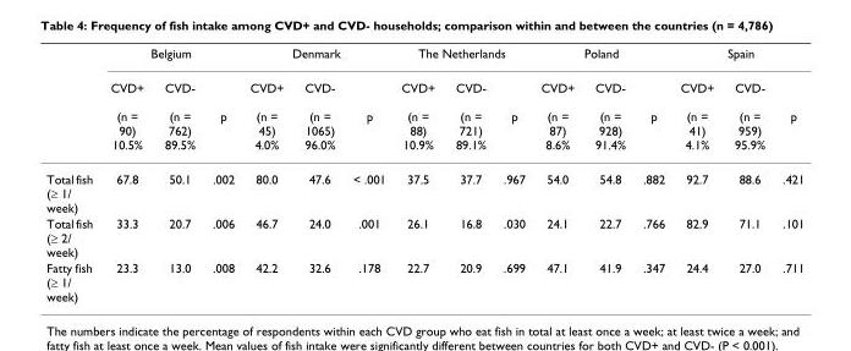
<table><thead><tr><td rowspan="2"></td><td colspan="3">Belgium</td><td colspan="3">Denmark</td><td colspan="3">The Netherlands</td><td colspan="3">Poland</td><td colspan="3">Spain</td></tr><tr><td>CVD+ (n = 90) 10.5%</td><td>CVD- (n = 762) 89.5%</td><td>p</td><td>CVD+ (n = 45) 4.0%</td><td>CVD- (n = 1065) 96.0%</td><td>p</td><td>CVD+ (n = 88) 10.9%</td><td>CVD- (n = 721) 89.1%</td><td>p</td><td>CVD+ (n = 87) 8.6%</td><td>CVD- (n = 928) 91.4%</td><td>p</td><td>CVD+ (n = 41) 4.1%</td><td>CVD- (n = 959) 95.9%</td><td>p</td></tr></thead><tbody><tr><td>Total fish (≥ 1/ week)</td><td>67.8</td><td>50.1</td><td>.002</td><td>80.0</td><td>47.6</td><td>&lt; .001</td><td>37.5</td><td>37.7</td><td>.967</td><td>54.0</td><td>54.8</td><td>.882</td><td>92.7</td><td>88.6</td><td>.421</td></tr><tr><td>Total fish (≥ 2/ week)</td><td>33.3</td><td>20.7</td><td>.006</td><td>46.7</td><td>24.0</td><td>.001</td><td>26.1</td><td>16.8</td><td>.030</td><td>24.1</td><td>22.7</td><td>.766</td><td>82.9</td><td>71.1</td><td>.101</td></tr><tr><td>Fatty fish (≥ 1/ week)</td><td>23.3</td><td>13.0</td><td>.008</td><td>42.2</td><td>32.6</td><td>.178</td><td>22.7</td><td>20.9</td><td>.699</td><td>47.1</td><td>41.9</td><td>.347</td><td>24.4</td><td>27.0</td><td>.711</td></tr></tbody></table>